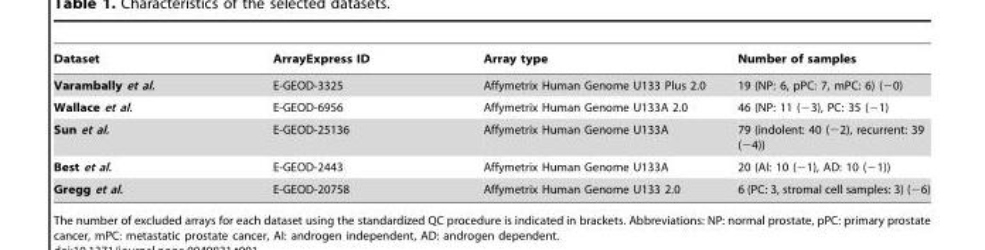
<table><thead><tr><td>Dataset</td><td>ArrayExpress ID</td><td>Array type</td><td>Number of samples</td></tr></thead><tbody><tr><td>Varambally et al.</td><td>E-GEOD-3325</td><td>Affymetrix Human Genome U133 Plus 2.0</td><td>19 (NP: 6, pPC: 7, mPC: 6) (−0)</td></tr><tr><td>Wallace et al.</td><td>E-GEOD-6956</td><td>Affymetrix Human Genome U133A 2.0</td><td>46 (NP: 11 (−3), PC: 35 (−1)</td></tr><tr><td>Sun et al.</td><td>E-GEOD-25136</td><td>Affymetrix Human Genome U133A</td><td>79 (indolent: 40 (−2), recurrent: 39 (−4))</td></tr><tr><td>Best et al.</td><td>E-GEOD-2443</td><td>Affymetrix Human Genome U133A</td><td>20 (AI: 10 (−1), AD: 10 (−1))</td></tr><tr><td>Gregg et al.</td><td>E-GEOD-20758</td><td>Affymetrix Human Genome U133 2.0</td><td>6 (PC: 3, stromal cell samples: 3) (−6)</td></tr></tbody></table>